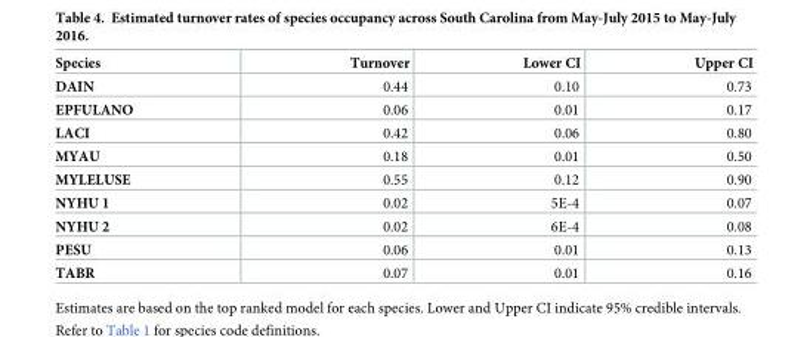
<table><thead><tr><td>Species</td><td>Turnover</td><td>Lower CI</td><td>Upper CI</td></tr></thead><tbody><tr><td>DAIN</td><td>0.44</td><td>0.10</td><td>0.73</td></tr><tr><td>EPFULANO</td><td>0.06</td><td>0.01</td><td>0.17</td></tr><tr><td>LACI</td><td>0.42</td><td>0.06</td><td>0.80</td></tr><tr><td>MYAU</td><td>0.18</td><td>0.01</td><td>0.50</td></tr><tr><td>MYLELUSE</td><td>0.55</td><td>0.12</td><td>0.90</td></tr><tr><td>NYHU 1</td><td>0.02</td><td>5E-4</td><td>0.07</td></tr><tr><td>NYHU 2</td><td>0.02</td><td>6E-4</td><td>0.08</td></tr><tr><td>PESU</td><td>0.06</td><td>0.01</td><td>0.13</td></tr><tr><td>TABR</td><td>0.07</td><td>0.01</td><td>0.16</td></tr></tbody></table>